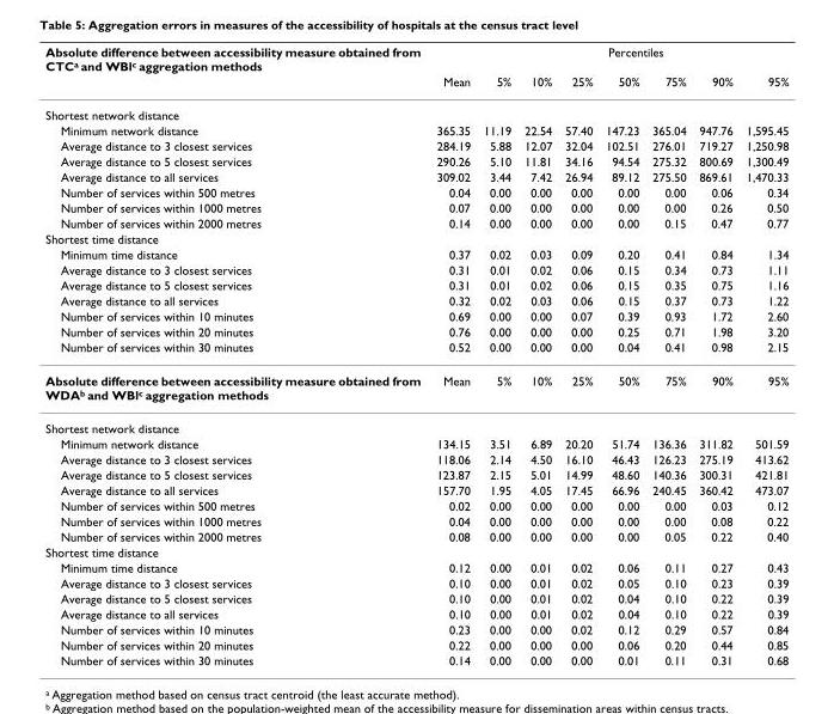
<table><thead><tr><td rowspan="2">Absolute difference between accessibility measure obtained from CTC<sup>a</sup> and WBl<sup>c</sup> aggregation methods</td><td rowspan="2">Mean</td><td colspan="7">Percentiles</td></tr><tr><td>5%</td><td>10%</td><td>25%</td><td>50%</td><td>75%</td><td>90%</td><td>95%</td></tr></thead><tbody><tr><td colspan="9">Shortest network distance</td></tr><tr><td>Minimum network distance</td><td>365.35</td><td>11.19</td><td>22.54</td><td>57.40</td><td>147.23</td><td>365.04</td><td>947.76</td><td>1,595.45</td></tr><tr><td>Average distance to 3 closest services</td><td>284.19</td><td>5.88</td><td>12.07</td><td>32.04</td><td>102.51</td><td>276.01</td><td>719.27</td><td>1,250.98</td></tr><tr><td>Average distance to 5 closest services</td><td>290.26</td><td>5.10</td><td>11.81</td><td>34.16</td><td>94.54</td><td>275.32</td><td>800.69</td><td>1,300.49</td></tr><tr><td>Average distance to all services</td><td>309.02</td><td>3.44</td><td>7.42</td><td>26.94</td><td>89.12</td><td>275.50</td><td>869.61</td><td>1,470.33</td></tr><tr><td>Number of services within 500 metres</td><td>0.04</td><td>0.00</td><td>0.00</td><td>0.00</td><td>0.00</td><td>0.00</td><td>0.06</td><td>0.34</td></tr><tr><td>Number of services within 1000 metres</td><td>0.07</td><td>0.00</td><td>0.00</td><td>0.00</td><td>0.00</td><td>0.00</td><td>0.26</td><td>0.50</td></tr><tr><td>Number of services within 2000 metres</td><td>0.14</td><td>0.00</td><td>0.00</td><td>0.00</td><td>0.00</td><td>0.15</td><td>0.47</td><td>0.77</td></tr><tr><td colspan="9">Shortest time distance</td></tr><tr><td>Minimum time distance</td><td>0.37</td><td>0.02</td><td>0.03</td><td>0.09</td><td>0.20</td><td>0.41</td><td>0.84</td><td>1.34</td></tr><tr><td>Average distance to 3 closest services</td><td>0.31</td><td>0.01</td><td>0.02</td><td>0.06</td><td>0.15</td><td>0.34</td><td>0.73</td><td>1.11</td></tr><tr><td>Average distance to 5 closest services</td><td>0.31</td><td>0.01</td><td>0.02</td><td>0.06</td><td>0.15</td><td>0.35</td><td>0.75</td><td>1.16</td></tr><tr><td>Average distance to all services</td><td>0.32</td><td>0.02</td><td>0.03</td><td>0.06</td><td>0.15</td><td>0.37</td><td>0.73</td><td>1.22</td></tr><tr><td>Number of services within 10 minutes</td><td>0.69</td><td>0.00</td><td>0.00</td><td>0.07</td><td>0.39</td><td>0.93</td><td>1.72</td><td>2.60</td></tr><tr><td>Number of services within 20 minutes</td><td>0.76</td><td>0.00</td><td>0.00</td><td>0.00</td><td>0.25</td><td>0.71</td><td>1.98</td><td>3.20</td></tr><tr><td>Number of services within 30 minutes</td><td>0.52</td><td>0.00</td><td>0.00</td><td>0.00</td><td>0.04</td><td>0.41</td><td>0.98</td><td>2.15</td></tr><tr><td>Absolute difference between accessibility measure obtained from WDA<sup>b</sup> and WBl<sup>c</sup> aggregation methods</td><td>Mean</td><td>5%</td><td>10%</td><td>25%</td><td>50%</td><td>75%</td><td>90%</td><td>95%</td></tr><tr><td colspan="9">Shortest network distance</td></tr><tr><td>Minimum network distance</td><td>134.15</td><td>3.51</td><td>6.89</td><td>20.20</td><td>51.74</td><td>136.36</td><td>311.82</td><td>501.59</td></tr><tr><td>Average distance to 3 closest services</td><td>118.06</td><td>2.14</td><td>4.50</td><td>16.10</td><td>46.43</td><td>126.23</td><td>275.19</td><td>413.62</td></tr><tr><td>Average distance to 5 closest services</td><td>123.87</td><td>2.15</td><td>5.01</td><td>14.99</td><td>48.60</td><td>140.36</td><td>300.31</td><td>421.81</td></tr><tr><td>Average distance to all services</td><td>157.70</td><td>1.95</td><td>4.05</td><td>17.45</td><td>66.96</td><td>240.45</td><td>360.42</td><td>473.07</td></tr><tr><td>Number of services within 500 metres</td><td>0.02</td><td>0.00</td><td>0.00</td><td>0.00</td><td>0.00</td><td>0.00</td><td>0.03</td><td>0.12</td></tr><tr><td>Number of services within 1000 metres</td><td>0.04</td><td>0.00</td><td>0.00</td><td>0.00</td><td>0.00</td><td>0.00</td><td>0.08</td><td>0.22</td></tr><tr><td>Number of services within 2000 metres</td><td>0.08</td><td>0.00</td><td>0.00</td><td>0.00</td><td>0.00</td><td>0.05</td><td>0.22</td><td>0.40</td></tr><tr><td colspan="9">Shortest time distance</td></tr><tr><td>Minimum time distance</td><td>0.12</td><td>0.00</td><td>0.01</td><td>0.02</td><td>0.06</td><td>0.11</td><td>0.27</td><td>0.43</td></tr><tr><td>Average distance to 3 closest services</td><td>0.10</td><td>0.00</td><td>0.01</td><td>0.02</td><td>0.05</td><td>0.10</td><td>0.23</td><td>0.39</td></tr><tr><td>Average distance to 5 closest services</td><td>0.10</td><td>0.00</td><td>0.01</td><td>0.02</td><td>0.04</td><td>0.10</td><td>0.22</td><td>0.39</td></tr><tr><td>Average distance to all services</td><td>0.10</td><td>0.00</td><td>0.01</td><td>0.02</td><td>0.04</td><td>0.10</td><td>0.22</td><td>0.39</td></tr><tr><td>Number of services within 10 minutes</td><td>0.23</td><td>0.00</td><td>0.00</td><td>0.02</td><td>0.12</td><td>0.29</td><td>0.57</td><td>0.84</td></tr><tr><td>Number of services within 20 minutes</td><td>0.22</td><td>0.00</td><td>0.00</td><td>0.00</td><td>0.06</td><td>0.20</td><td>0.44</td><td>0.85</td></tr><tr><td>Number of services within 30 minutes</td><td>0.14</td><td>0.00</td><td>0.00</td><td>0.00</td><td>0.01</td><td>0.11</td><td>0.31</td><td>0.68</td></tr></tbody></table>